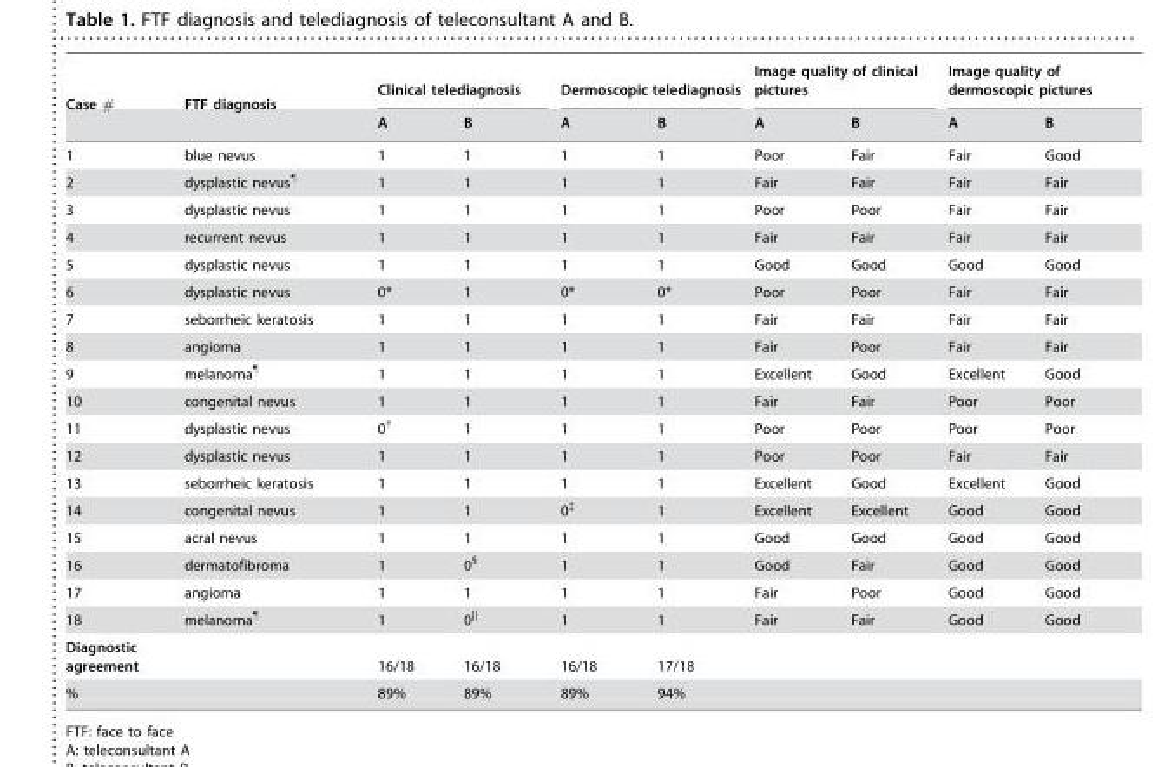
<table><thead><tr><td rowspan="2">Case #</td><td rowspan="2">FTF diagnosis</td><td colspan="2">Clinical telediagnosis</td><td colspan="2">Dermoscopic telediagnosis</td><td colspan="2">Image quality of clinical pictures</td><td colspan="2">Image quality of dermoscopic pictures</td></tr><tr><td>A</td><td>B</td><td>A</td><td>B</td><td>A</td><td>B</td><td>A</td><td>B</td></tr></thead><tbody><tr><td>1</td><td>blue nevus</td><td>1</td><td>1</td><td>1</td><td>1</td><td>Poor</td><td>Fair</td><td>Fair</td><td>Good</td></tr><tr><td>2</td><td>dysplastic nevus¶</td><td>1</td><td>1</td><td>1</td><td>1</td><td>Fair</td><td>Fair</td><td>Fair</td><td>Fair</td></tr><tr><td>3</td><td>dysplastic nevus</td><td>1</td><td>1</td><td>1</td><td>1</td><td>Poor</td><td>Poor</td><td>Fair</td><td>Fair</td></tr><tr><td>4</td><td>recurrent nevus</td><td>1</td><td>1</td><td>1</td><td>1</td><td>Fair</td><td>Fair</td><td>Fair</td><td>Fair</td></tr><tr><td>5</td><td>dysplastic nevus</td><td>1</td><td>1</td><td>1</td><td>1</td><td>Good</td><td>Good</td><td>Good</td><td>Good</td></tr><tr><td>6</td><td>dysplastic nevus</td><td>0*</td><td>1</td><td>0*</td><td>0*</td><td>Poor</td><td>Poor</td><td>Fair</td><td>Fair</td></tr><tr><td>7</td><td>seborrheic keratosis</td><td>1</td><td>1</td><td>1</td><td>1</td><td>Fair</td><td>Fair</td><td>Fair</td><td>Fair</td></tr><tr><td>8</td><td>angioma</td><td>1</td><td>1</td><td>1</td><td>1</td><td>Fair</td><td>Poor</td><td>Fair</td><td>Fair</td></tr><tr><td>9</td><td>melanoma¶</td><td>1</td><td>1</td><td>1</td><td>1</td><td>Excellent</td><td>Good</td><td>Excellent</td><td>Good</td></tr><tr><td>10</td><td>congenital nevus</td><td>1</td><td>1</td><td>1</td><td>1</td><td>Fair</td><td>Fair</td><td>Poor</td><td>Poor</td></tr><tr><td>11</td><td>dysplastic nevus</td><td>0†</td><td>1</td><td>1</td><td>1</td><td>Poor</td><td>Poor</td><td>Poor</td><td>Poor</td></tr><tr><td>12</td><td>dysplastic nevus</td><td>1</td><td>1</td><td>1</td><td>1</td><td>Poor</td><td>Poor</td><td>Fair</td><td>Fair</td></tr><tr><td>13</td><td>seborrheic keratosis</td><td>1</td><td>1</td><td>1</td><td>1</td><td>Excellent</td><td>Good</td><td>Excellent</td><td>Good</td></tr><tr><td>14</td><td>congenital nevus</td><td>1</td><td>1</td><td>0‡</td><td>1</td><td>Excellent</td><td>Excellent</td><td>Good</td><td>Good</td></tr><tr><td>15</td><td>acral nevus</td><td>1</td><td>1</td><td>1</td><td>1</td><td>Good</td><td>Good</td><td>Good</td><td>Good</td></tr><tr><td>16</td><td>dermatofibroma</td><td>1</td><td>0§</td><td>1</td><td>1</td><td>Good</td><td>Fair</td><td>Good</td><td>Good</td></tr><tr><td>17</td><td>angioma</td><td>1</td><td>1</td><td>1</td><td>1</td><td>Fair</td><td>Poor</td><td>Good</td><td>Good</td></tr><tr><td>18</td><td>melanoma¶</td><td>1</td><td>0||</td><td>1</td><td>1</td><td>Fair</td><td>Fair</td><td>Good</td><td>Good</td></tr><tr><td>Diagnostic agreement</td><td></td><td>16/18</td><td>16/18</td><td>16/18</td><td>17/18</td><td></td><td></td><td></td><td></td></tr><tr><td>%</td><td></td><td>89%</td><td>89%</td><td>89%</td><td>94%</td><td></td><td></td><td></td><td></td></tr></tbody></table>